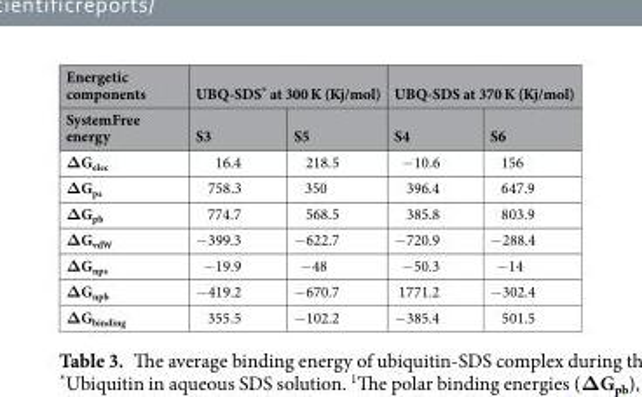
<table><thead><tr><td rowspan="2">Energetic components SystemFree energy</td><td colspan="2">UBQ-SDS* at 300 K (Kj/mol)</td><td colspan="2">UBQ-SDS at 370 K (Kj/mol)</td></tr><tr><td>S3</td><td>S5</td><td>S4</td><td>S6</td></tr></thead><tbody><tr><td>ΔG<sub>elec</sub></td><td>16.4</td><td>218.5</td><td>−10.6</td><td>156</td></tr><tr><td>ΔG<sub>ps</sub></td><td>758.3</td><td>350</td><td>396.4</td><td>647.9</td></tr><tr><td>ΔG<sub>pb</sub></td><td>774.7</td><td>568.5</td><td>385.8</td><td>803.9</td></tr><tr><td>ΔG<sub>vdW</sub></td><td>−399.3</td><td>−622.7</td><td>−720.9</td><td>−288.4</td></tr><tr><td>ΔG<sub>nps</sub></td><td>−19.9</td><td>−48</td><td>−50.3</td><td>−14</td></tr><tr><td>ΔG<sub>npb</sub></td><td>−419.2</td><td>−670.7</td><td>1771.2</td><td>−302.4</td></tr><tr><td>ΔG<sub>binding</sub></td><td>355.5</td><td>−102.2</td><td>−385.4</td><td>501.5</td></tr></tbody></table>